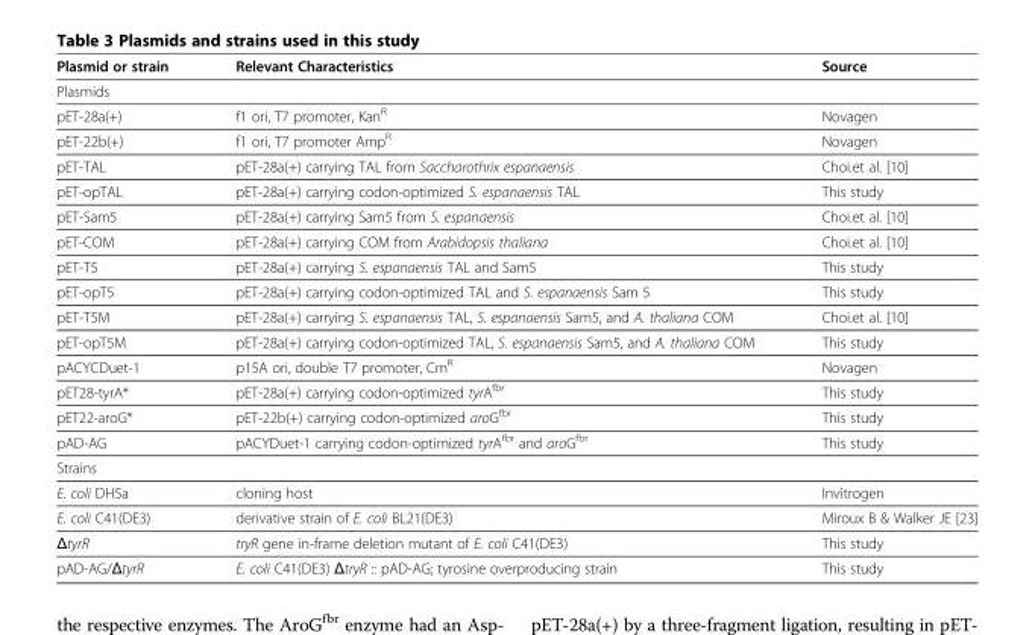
<table><thead><tr><td>Plasmid or strain</td><td>Relevant Characteristics</td><td>Source</td></tr></thead><tbody><tr><td colspan="3">Plasmids</td></tr><tr><td>pET-28a(+)</td><td>f1 ori, T7 promoter, Kan<sup>R</sup></td><td>Novagen</td></tr><tr><td>pET-22b(+)</td><td>f1 ori, T7 promoter Amp<sup>R</sup></td><td>Novagen</td></tr><tr><td>pET-TAL</td><td>pET-28a(+) carrying TAL from Saccharothrix espanaensis</td><td>Choi.et al. [10]</td></tr><tr><td>pET-opTAL</td><td>pET-28a(+) carrying codon-optimized S. espanaensis TAL</td><td>This study</td></tr><tr><td>pET-Sam5</td><td>pET-28a(+) carrying Sam5 from S. espanaensis</td><td>Choi.et al. [10]</td></tr><tr><td>pET-COM</td><td>pET-28a(+) carrying COM from Arabidopsis thaliana</td><td>Choi.et al. [10]</td></tr><tr><td>pET-T5</td><td>pET-28a(+) carrying S. espanaensis TAL and Sam5</td><td>This study</td></tr><tr><td>pET-opT5</td><td>pET-28a(+) carrying codon-optimized TAL and S. espanaensis Sam 5</td><td>This study</td></tr><tr><td>pET-T5M</td><td>pET-28a(+) carrying S. espanaensis TAL, S. espanaensis Sam5, and A. thaliana COM</td><td>Choi.et al. [10]</td></tr><tr><td>pET-opT5M</td><td>pET-28a(+) carrying codon-optimized TAL, S. espanaensis Sam5, and A. thaliana COM</td><td>This study</td></tr><tr><td>pACYCDuet-1</td><td>p15A ori, double T7 promoter, Cm<sup>R</sup></td><td>Novagen</td></tr><tr><td>pET28-tyrA*</td><td>pET-28a(+) carrying codon-optimized tyrA<sup>fbr</sup></td><td>This study</td></tr><tr><td>pET22-aroG*</td><td>pET-22b(+) carrying codon-optimized aroG<sup>fbr</sup></td><td>This study</td></tr><tr><td>pAD-AG</td><td>pACYDuet-1 carrying codon-optimized tyrA<sup>fbr</sup> and aroG<sup>fbr</sup></td><td>This study</td></tr><tr><td colspan="3">Strains</td></tr><tr><td>E. coli DH5a</td><td>cloning host</td><td>Invitrogen</td></tr><tr><td>E. coli C41(DE3)</td><td>derivative strain of E. coli BL21(DE3)</td><td>Miroux B &amp; Walker JE [23]</td></tr><tr><td>ΔtyrR</td><td>tryR gene in-frame deletion mutant of E. coli C41(DE3)</td><td>This study</td></tr><tr><td>pAD-AG/ΔtyrR</td><td>E. coli C41(DE3) ΔtryR :: pAD-AG; tyrosine overproducing strain</td><td>This study</td></tr></tbody></table>